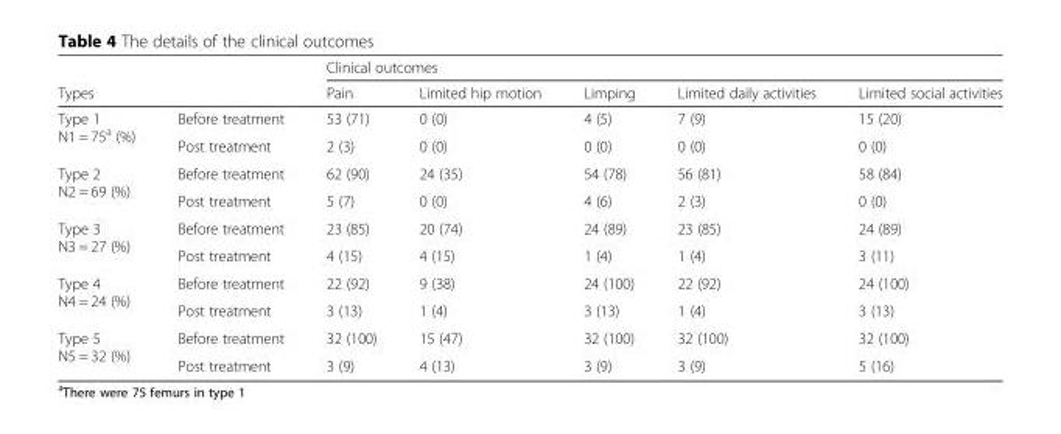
<table><thead><tr><td></td><td></td><td colspan="5">Clinical outcomes</td></tr><tr><td colspan="2">Types</td><td>Pain</td><td>Limited hip motion</td><td>Limping</td><td>Limited daily activities</td><td>Limited social activities</td></tr></thead><tbody><tr><td rowspan="2">Type 1 N1 = 75<sup>a</sup> (%)</td><td>Before treatment</td><td>53 (71)</td><td>0 (0)</td><td>4 (5)</td><td>7 (9)</td><td>15 (20)</td></tr><tr><td>Post treatment</td><td>2 (3)</td><td>0 (0)</td><td>0 (0)</td><td>0 (0)</td><td>0 (0)</td></tr><tr><td rowspan="2">Type 2 N2 = 69 (%)</td><td>Before treatment</td><td>62 (90)</td><td>24 (35)</td><td>54 (78)</td><td>56 (81)</td><td>58 (84)</td></tr><tr><td>Post treatment</td><td>5 (7)</td><td>0 (0)</td><td>4 (6)</td><td>2 (3)</td><td>0 (0)</td></tr><tr><td rowspan="2">Type 3 N3 = 27 (%)</td><td>Before treatment</td><td>23 (85)</td><td>20 (74)</td><td>24 (89)</td><td>23 (85)</td><td>24 (89)</td></tr><tr><td>Post treatment</td><td>4 (15)</td><td>4 (15)</td><td>1 (4)</td><td>1 (4)</td><td>3 (11)</td></tr><tr><td rowspan="2">Type 4 N4 = 24 (%)</td><td>Before treatment</td><td>22 (92)</td><td>9 (38)</td><td>24 (100)</td><td>22 (92)</td><td>24 (100)</td></tr><tr><td>Post treatment</td><td>3 (13)</td><td>1 (4)</td><td>3 (13)</td><td>1 (4)</td><td>3 (13)</td></tr><tr><td rowspan="2">Type 5 N5 = 32 (%)</td><td>Before treatment</td><td>32 (100)</td><td>15 (47)</td><td>32 (100)</td><td>32 (100)</td><td>32 (100)</td></tr><tr><td>Post treatment</td><td>3 (9)</td><td>4 (13)</td><td>3 (9)</td><td>3 (9)</td><td>5 (16)</td></tr></tbody></table>